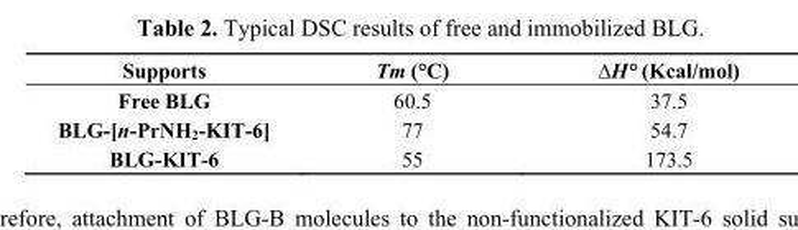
<table><thead><tr><td>Supports</td><td>Tm (°C)</td><td>∆H° (Kcal/mol)</td></tr></thead><tbody><tr><td>Free BLG</td><td>60.5</td><td>37.5</td></tr><tr><td>BLG-[n-PrNH<sub>2</sub>-KIT-6]</td><td>77</td><td>54.7</td></tr><tr><td>BLG-KIT-6</td><td>55</td><td>173.5</td></tr></tbody></table>